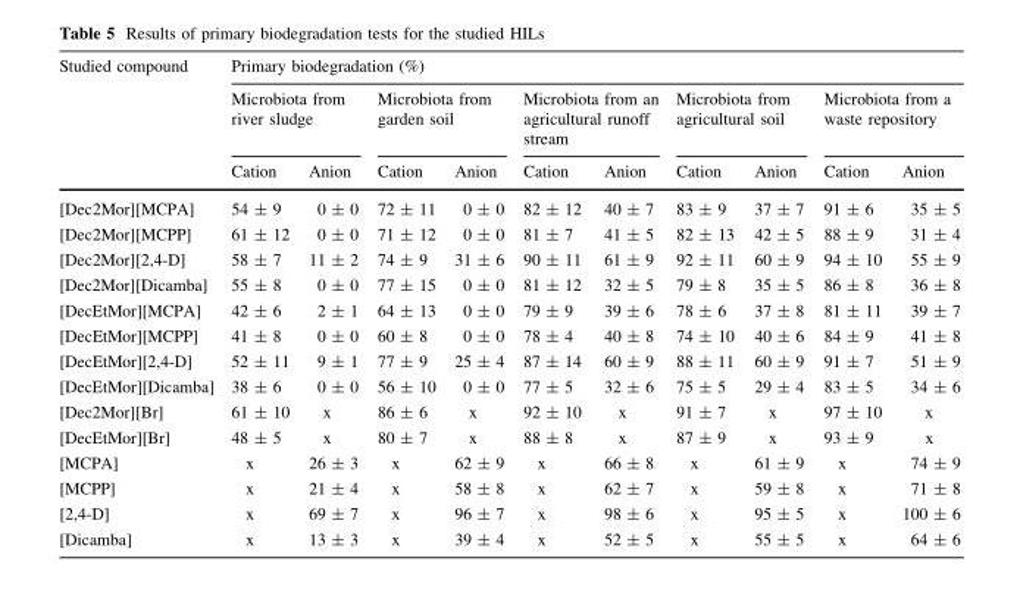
<table><thead><tr><td rowspan="3">Studied compound</td><td colspan="10">Primary biodegradation (%)</td></tr><tr><td colspan="2">Microbiota from river sludge</td><td colspan="2">Microbiota from garden soil</td><td colspan="2">Microbiota from an agricultural runoff stream</td><td colspan="2">Microbiota from agricultural soil</td><td colspan="2">Microbiota from a waste repository</td></tr><tr><td>Cation</td><td>Anion</td><td>Cation</td><td>Anion</td><td>Cation</td><td>Anion</td><td>Cation</td><td>Anion</td><td>Cation</td><td>Anion</td></tr></thead><tbody><tr><td>[Dec2Mor][MCPA]</td><td>54 ± 9</td><td>0 ± 0</td><td>72 ± 11</td><td>0 ± 0</td><td>82 ± 12</td><td>40 ± 7</td><td>83 ± 9</td><td>37 ± 7</td><td>91 ± 6</td><td>35 ± 5</td></tr><tr><td>[Dec2Mor][MCPP]</td><td>61 ± 12</td><td>0 ± 0</td><td>71 ± 12</td><td>0 ± 0</td><td>81 ± 7</td><td>41 ± 5</td><td>82 ± 13</td><td>42 ± 5</td><td>88 ± 9</td><td>31 ± 4</td></tr><tr><td>[Dec2Mor][2,4-D]</td><td>58 ± 7</td><td>11 ± 2</td><td>74 ± 9</td><td>31 ± 6</td><td>90 ± 11</td><td>61 ± 9</td><td>92 ± 11</td><td>60 ± 9</td><td>94 ± 10</td><td>55 ± 9</td></tr><tr><td>[Dec2Mor][Dicamba]</td><td>55 ± 8</td><td>0 ± 0</td><td>77 ± 15</td><td>0 ± 0</td><td>81 ± 12</td><td>32 ± 5</td><td>79 ± 8</td><td>35 ± 5</td><td>86 ± 8</td><td>36 ± 8</td></tr><tr><td>[DecEtMor][MCPA]</td><td>42 ± 6</td><td>2 ± 1</td><td>64 ± 13</td><td>0 ± 0</td><td>79 ± 9</td><td>39 ± 6</td><td>78 ± 6</td><td>37 ± 8</td><td>81 ± 11</td><td>39 ± 7</td></tr><tr><td>[DecEtMor][MCPP]</td><td>41 ± 8</td><td>0 ± 0</td><td>60 ± 8</td><td>0 ± 0</td><td>78 ± 4</td><td>40 ± 8</td><td>74 ± 10</td><td>40 ± 6</td><td>84 ± 9</td><td>41 ± 8</td></tr><tr><td>[DecEtMor][2,4-D]</td><td>52 ± 11</td><td>9 ± 1</td><td>77 ± 9</td><td>25 ± 4</td><td>87 ± 14</td><td>60 ± 9</td><td>88 ± 11</td><td>60 ± 9</td><td>91 ± 7</td><td>51 ± 9</td></tr><tr><td>[DecEtMor][Dicamba]</td><td>38 ± 6</td><td>0 ± 0</td><td>56 ± 10</td><td>0 ± 0</td><td>77 ± 5</td><td>32 ± 6</td><td>75 ± 5</td><td>29 ± 4</td><td>83 ± 5</td><td>34 ± 6</td></tr><tr><td>[Dec2Mor][Br]</td><td>61 ± 10</td><td>x</td><td>86 ± 6</td><td>x</td><td>92 ± 10</td><td>x</td><td>91 ± 7</td><td>x</td><td>97 ± 10</td><td>x</td></tr><tr><td>[DecEtMor][Br]</td><td>48 ± 5</td><td>x</td><td>80 ± 7</td><td>x</td><td>88 ± 8</td><td>x</td><td>87 ± 9</td><td>x</td><td>93 ± 9</td><td>x</td></tr><tr><td>[MCPA]</td><td>x</td><td>26 ± 3</td><td>x</td><td>62 ± 9</td><td>x</td><td>66 ± 8</td><td>x</td><td>61 ± 9</td><td>x</td><td>74 ± 9</td></tr><tr><td>[MCPP]</td><td>x</td><td>21 ± 4</td><td>x</td><td>58 ± 8</td><td>x</td><td>62 ± 7</td><td>x</td><td>59 ± 8</td><td>x</td><td>71 ± 8</td></tr><tr><td>[2,4-D]</td><td>x</td><td>69 ± 7</td><td>x</td><td>96 ± 7</td><td>x</td><td>98 ± 6</td><td>x</td><td>95 ± 5</td><td>x</td><td>100 ± 6</td></tr><tr><td>[Dicamba]</td><td>x</td><td>13 ± 3</td><td>x</td><td>39 ± 4</td><td>x</td><td>52 ± 5</td><td>x</td><td>55 ± 5</td><td>x</td><td>64 ± 6</td></tr></tbody></table>